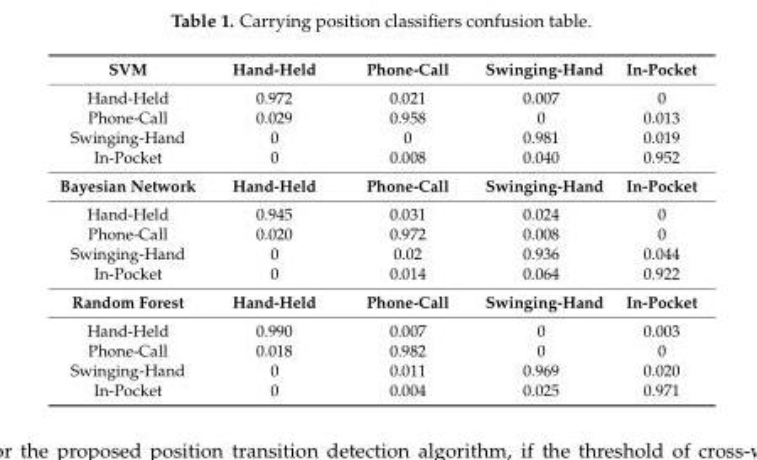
<table><tbody><tr><td>SVM</td><td>Hand-Held</td><td>Phone-Call</td><td>Swinging-Hand</td><td>In-Pocket</td></tr><tr><td>Hand-Held</td><td>0.972</td><td>0.021</td><td>0.007</td><td>0</td></tr><tr><td>Phone-Call</td><td>0.029</td><td>0.958</td><td>0</td><td>0.013</td></tr><tr><td>Swinging-Hand</td><td>0</td><td>0</td><td>0.981</td><td>0.019</td></tr><tr><td>In-Pocket</td><td>0</td><td>0.008</td><td>0.040</td><td>0.952</td></tr><tr><td>Bayesian Network</td><td>Hand-Held</td><td>Phone-Call</td><td>Swinging-Hand</td><td>In-Pocket</td></tr><tr><td>Hand-Held</td><td>0.945</td><td>0.031</td><td>0.024</td><td>0</td></tr><tr><td>Phone-Call</td><td>0.020</td><td>0.972</td><td>0.008</td><td>0</td></tr><tr><td>Swinging-Hand</td><td>0</td><td>0.02</td><td>0.936</td><td>0.044</td></tr><tr><td>In-Pocket</td><td>0</td><td>0.014</td><td>0.064</td><td>0.922</td></tr><tr><td>Random Forest</td><td>Hand-Held</td><td>Phone-Call</td><td>Swinging-Hand</td><td>In-Pocket</td></tr><tr><td>Hand-Held</td><td>0.990</td><td>0.007</td><td>0</td><td>0.003</td></tr><tr><td>Phone-Call</td><td>0.018</td><td>0.982</td><td>0</td><td>0</td></tr><tr><td>Swinging-Hand</td><td>0</td><td>0.011</td><td>0.969</td><td>0.020</td></tr><tr><td>In-Pocket</td><td>0</td><td>0.004</td><td>0.025</td><td>0.971</td></tr></tbody></table>